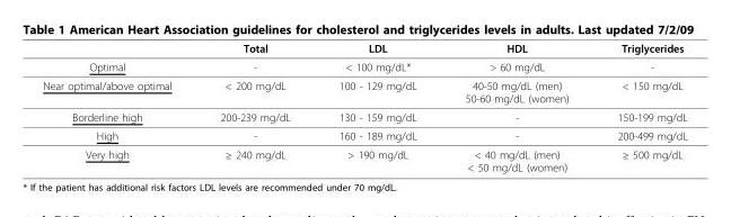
<table><thead><tr><td></td><td>Total</td><td>LDL</td><td>HDL</td><td>Triglycerides</td></tr></thead><tbody><tr><td>Optimal</td><td>-</td><td>&lt; 100 mg/dL*</td><td>&gt; 60 mg/dL</td><td>-</td></tr><tr><td>Near optimal/above optimal</td><td>&lt; 200 mg/dL</td><td>100 - 129 mg/dL</td><td>40-50 mg/dL (men) 50-60 mg/dL (women)</td><td>&lt; 150 mg/dL</td></tr><tr><td>Borderline high</td><td>200-239 mg/dL</td><td>130 - 159 mg/dL</td><td>-</td><td>150-199 mg/dL</td></tr><tr><td>High</td><td>-</td><td>160 - 189 mg/dL</td><td>-</td><td>200-499 mg/dL</td></tr><tr><td>Very high</td><td>≥ 240 mg/dL</td><td>&gt; 190 mg/dL</td><td>&lt; 40 mg/dL (men) &lt; 50 mg/dL (women)</td><td>≥ 500 mg/dL</td></tr></tbody></table>